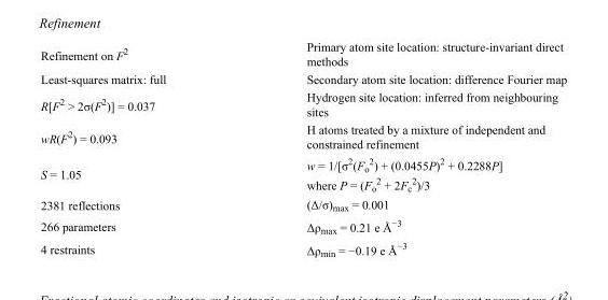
<table><tbody><tr><td>Refinement on F<sup>2</sup></td><td>Primary atom site location: structure-invariant direct methods</td></tr><tr><td>Least-squares matrix: full</td><td>Secondary atom site location: difference Fourier map</td></tr><tr><td>R[F<sup>2</sup> &gt; 2σ(F<sup>2</sup>)] = 0.037</td><td>Hydrogen site location: inferred from neighbouring sites</td></tr><tr><td>wR(F<sup>2</sup>) = 0.093</td><td>H atoms treated by a mixture of independent and constrained refinement</td></tr><tr><td>S = 1.05</td><td>w = 1/[σ<sup>2</sup>(F<sub>o</sub> <sup>2</sup>) + (0.0455P)<sup>2</sup> + 0.2288P] where P = (F<sub>o</sub> <sup>2</sup> + 2F<sub>c</sub> <sup>2</sup>)/3</td></tr><tr><td>2381 reflections</td><td>(Δ/σ)<sub>max</sub> = 0.001</td></tr><tr><td>266 parameters</td><td>Δρ<sub>max</sub> = 0.21 e Å<sup>−3</sup></td></tr><tr><td>4 restraints</td><td>Δρ<sub>min</sub> = −0.19 e Å<sup>−3</sup></td></tr></tbody></table>